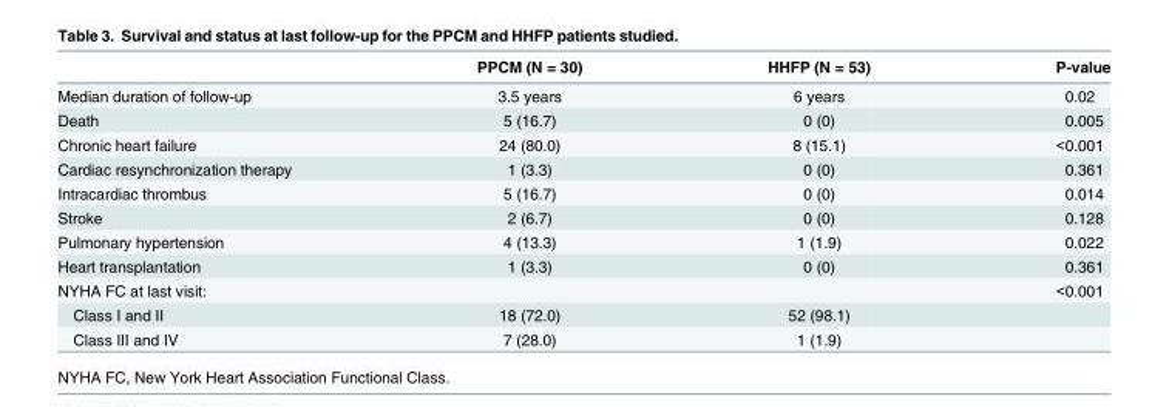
<table><thead><tr><td></td><td>PPCM (N = 30)</td><td>HHFP (N = 53)</td><td>P-value</td></tr></thead><tbody><tr><td>Median duration of follow-up</td><td>3.5 years</td><td>6 years</td><td>0.02</td></tr><tr><td>Death</td><td>5 (16.7)</td><td>0 (0)</td><td>0.005</td></tr><tr><td>Chronic heart failure</td><td>24 (80.0)</td><td>8 (15.1)</td><td>&lt;0.001</td></tr><tr><td>Cardiac resynchronization therapy</td><td>1 (3.3)</td><td>0 (0)</td><td>0.361</td></tr><tr><td>Intracardiac thrombus</td><td>5 (16.7)</td><td>0 (0)</td><td>0.014</td></tr><tr><td>Stroke</td><td>2 (6.7)</td><td>0 (0)</td><td>0.128</td></tr><tr><td>Pulmonary hypertension</td><td>4 (13.3)</td><td>1 (1.9)</td><td>0.022</td></tr><tr><td>Heart transplantation</td><td>1 (3.3)</td><td>0 (0)</td><td>0.361</td></tr><tr><td>NYHA FC at last visit:</td><td></td><td></td><td>&lt;0.001</td></tr><tr><td>Class I and II</td><td>18 (72.0)</td><td>52 (98.1)</td><td></td></tr><tr><td>Class III and IV</td><td>7 (28.0)</td><td>1 (1.9)</td><td></td></tr></tbody></table>